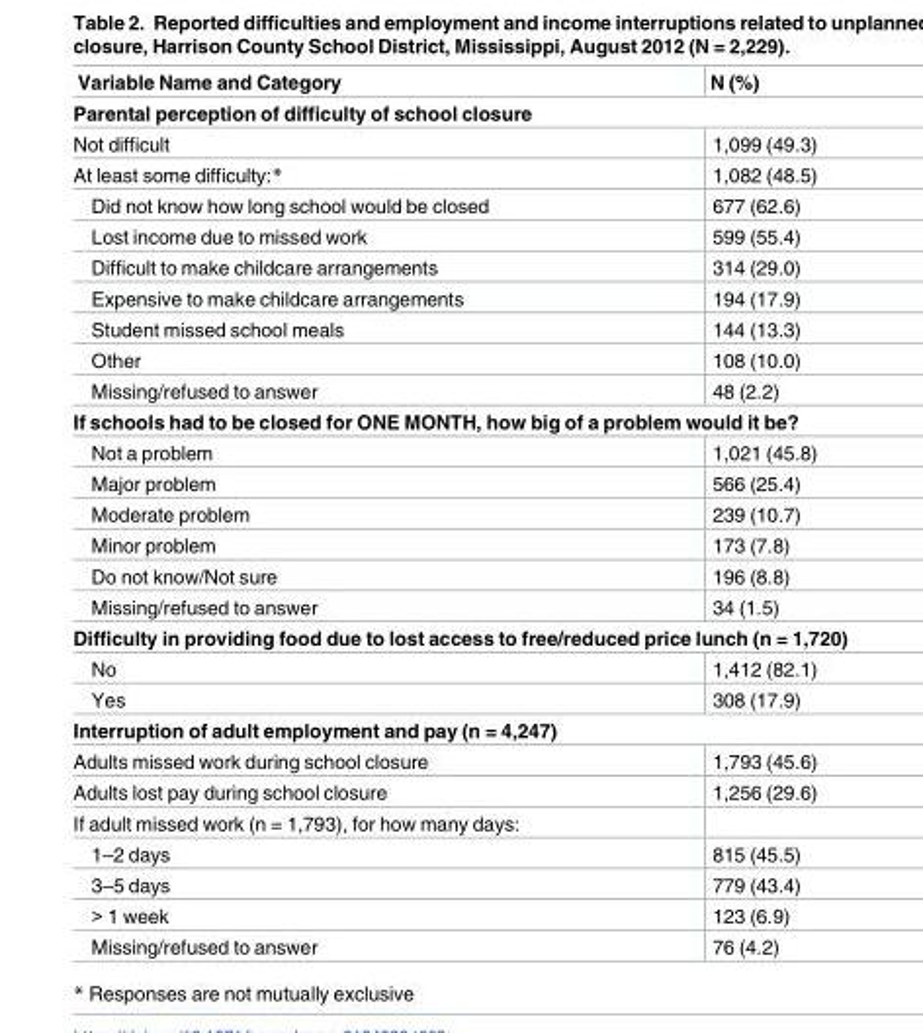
<table><thead><tr><td>Variable Name and Category</td><td>N (%)</td></tr></thead><tbody><tr><td colspan="2">Parental perception of difficulty of school closure</td></tr><tr><td>Not difficult</td><td>1,099 (49.3)</td></tr><tr><td>At least some difficulty:*</td><td>1,082 (48.5)</td></tr><tr><td>Did not know how long school would be closed</td><td>677 (62.6)</td></tr><tr><td>Lost income due to missed work</td><td>599 (55.4)</td></tr><tr><td>Difficult to make childcare arrangements</td><td>314 (29.0)</td></tr><tr><td>Expensive to make childcare arrangements</td><td>194 (17.9)</td></tr><tr><td>Student missed school meals</td><td>144 (13.3)</td></tr><tr><td>Other</td><td>108 (10.0)</td></tr><tr><td>Missing/refused to answer</td><td>48 (2.2)</td></tr><tr><td colspan="2">If schools had to be closed for ONE MONTH, how big of a problem would it be?</td></tr><tr><td>Not a problem</td><td>1,021 (45.8)</td></tr><tr><td>Major problem</td><td>566 (25.4)</td></tr><tr><td>Moderate problem</td><td>239 (10.7)</td></tr><tr><td>Minor problem</td><td>173 (7.8)</td></tr><tr><td>Do not know/Not sure</td><td>196 (8.8)</td></tr><tr><td>Missing/refused to answer</td><td>34 (1.5)</td></tr><tr><td colspan="2">Difficulty in providing food due to lost access to free/reduced price lunch (n = 1,720)</td></tr><tr><td>No</td><td>1,412 (82.1)</td></tr><tr><td>Yes</td><td>308 (17.9)</td></tr><tr><td colspan="2">Interruption of adult employment and pay (n = 4,247)</td></tr><tr><td>Adults missed work during school closure</td><td>1,793 (45.6)</td></tr><tr><td>Adults lost pay during school closure</td><td>1,256 (29.6)</td></tr><tr><td colspan="2">If adult missed work (n = 1,793), for how many days:</td></tr><tr><td>1–2 days</td><td>815 (45.5)</td></tr><tr><td>3–5 days</td><td>779 (43.4)</td></tr><tr><td>&gt; 1 week</td><td>123 (6.9)</td></tr><tr><td>Missing/refused to answer</td><td>76 (4.2)</td></tr></tbody></table>